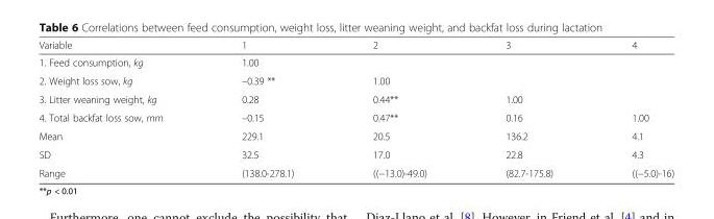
<table><thead><tr><td>Variable</td><td>1</td><td>2</td><td>3</td><td>4</td></tr></thead><tbody><tr><td>1. Feed consumption, kg</td><td>1.00</td><td></td><td></td><td></td></tr><tr><td>2. Weight loss sow, kg</td><td>–0.39 **</td><td>1.00</td><td></td><td></td></tr><tr><td>3. Litter weaning weight, kg</td><td>0.28</td><td>0.44**</td><td>1.00</td><td></td></tr><tr><td>4. Total backfat loss sow, mm</td><td>–0.15</td><td>0.47**</td><td>0.16</td><td>1.00</td></tr><tr><td>Mean</td><td>229.1</td><td>20.5</td><td>136.2</td><td>4.1</td></tr><tr><td>SD</td><td>32.5</td><td>17.0</td><td>22.8</td><td>4.3</td></tr><tr><td>Range</td><td>(138.0-278.1)</td><td>((−13.0)-49.0)</td><td>(82.7-175.8)</td><td>((−5.0)-16)</td></tr></tbody></table>